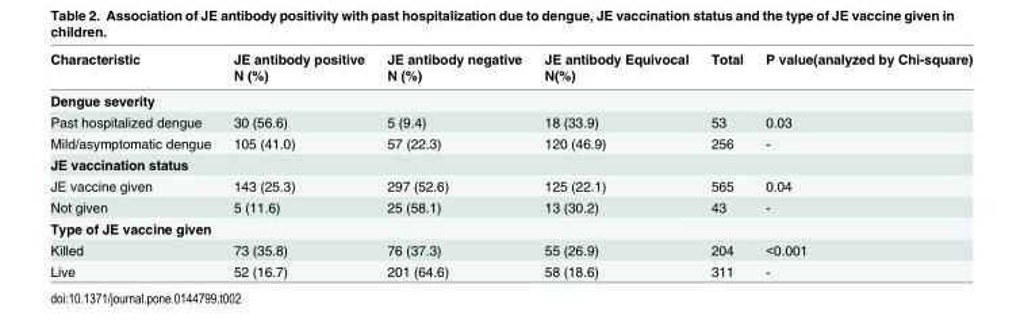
<table><thead><tr><td>Characteristic</td><td>JE antibody positive N (%)</td><td>JE antibody negative N (%)</td><td>JE antibody Equivocal N(%)</td><td>Total</td><td>P value(analyzed by Chi-square)</td></tr></thead><tbody><tr><td colspan="6">Dengue severity</td></tr><tr><td>Past hospitalized dengue</td><td>30 (56.6)</td><td>5 (9.4)</td><td>18 (33.9)</td><td>53</td><td>0.03</td></tr><tr><td>Mild/asymptomatic dengue</td><td>105 (41.0)</td><td>57 (22.3)</td><td>120 (46.9)</td><td>256</td><td>-</td></tr><tr><td colspan="6">JE vaccination status</td></tr><tr><td>JE vaccine given</td><td>143 (25.3)</td><td>297 (52.6)</td><td>125 (22.1)</td><td>565</td><td>0.04</td></tr><tr><td>Not given</td><td>5 (11.6)</td><td>25 (58.1)</td><td>13 (30.2)</td><td>43</td><td>-</td></tr><tr><td colspan="6">Type of JE vaccine given</td></tr><tr><td>Killed</td><td>73 (35.8)</td><td>76 (37.3)</td><td>55 (26.9)</td><td>204</td><td>&lt;0.001</td></tr><tr><td>Live</td><td>52 (16.7)</td><td>201 (64.6)</td><td>58 (18.6)</td><td>311</td><td>-</td></tr></tbody></table>